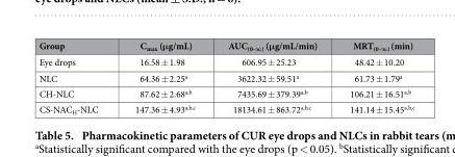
<table><thead><tr><td>Group</td><td>C<sub>max</sub> (μg/mL)</td><td>AUC<sub>(0-∞)</sub> (μg/mL/min)</td><td>MRT<sub>(0-∞)</sub> (min)</td></tr></thead><tbody><tr><td>Eye drops</td><td>16.58 ± 1.98</td><td>606.95 ± 25.23</td><td>48.42 ± 10.20</td></tr><tr><td>NLC</td><td>64.36 ± 2.25<sup>a</sup></td><td>3622.32 ± 59.51<sup>a</sup></td><td>61.73 ± 1.79<sup>a</sup></td></tr><tr><td>CH-NLC</td><td>87.62 ± 2.68<sup>a</sup>,<sup>b</sup></td><td>7435.69 ± 379.39<sup>a</sup>,<sup>b</sup></td><td>106.21 ± 16.51<sup>a</sup>,<sup>b</sup></td></tr><tr><td>CS-NAC<sub>H</sub>-NLC</td><td>147.36 ± 4.93<sup>a</sup>,<sup>b</sup>,<sup>c</sup></td><td>18134.61 ± 863.72<sup>a</sup>,<sup>b</sup>,<sup>c</sup></td><td>141.14 ± 15.45<sup>a</sup>,<sup>b</sup>,<sup>c</sup></td></tr></tbody></table>